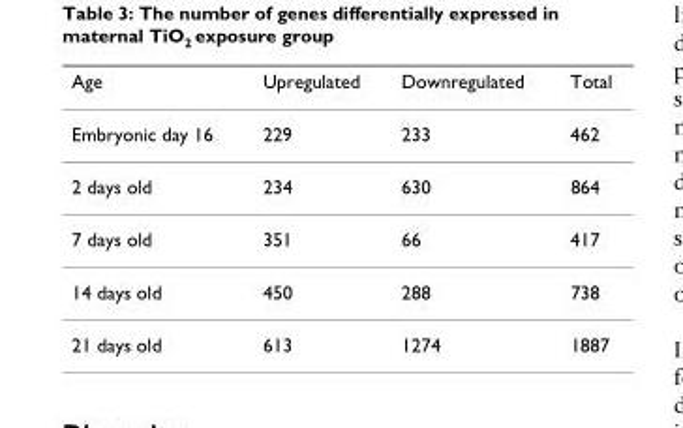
<table><thead><tr><td>Age</td><td>Upregulated</td><td>Downregulated</td><td>Total</td></tr></thead><tbody><tr><td>Embryonic day 16</td><td>229</td><td>233</td><td>462</td></tr><tr><td>2 days old</td><td>234</td><td>630</td><td>864</td></tr><tr><td>7 days old</td><td>351</td><td>66</td><td>417</td></tr><tr><td>14 days old</td><td>450</td><td>288</td><td>738</td></tr><tr><td>21 days old</td><td>613</td><td>1274</td><td>1887</td></tr></tbody></table>